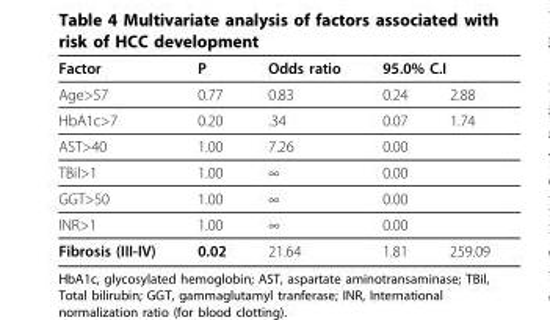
<table><thead><tr><td rowspan="2">Factor Age&gt;57</td><td rowspan="2">P 0.77</td><td rowspan="2">Odds ratio 0.83</td><td colspan="2">95.0% C.I</td></tr><tr><td>0.24</td><td>2.88</td></tr></thead><tbody><tr><td>HbA1c&gt;7</td><td>0.20</td><td>.34</td><td>0.07</td><td>1.74</td></tr><tr><td>AST&gt;40</td><td>1.00</td><td>7.26</td><td>0.00</td><td></td></tr><tr><td>TBil&gt;1</td><td>1.00</td><td>∞</td><td>0.00</td><td></td></tr><tr><td>GGT&gt;50</td><td>1.00</td><td>∞</td><td>0.00</td><td></td></tr><tr><td>INR&gt;1</td><td>1.00</td><td>∞</td><td>0.00</td><td></td></tr><tr><td>Fibrosis (III-IV)</td><td>0.02</td><td>21.64</td><td>1.81</td><td>259.09</td></tr></tbody></table>